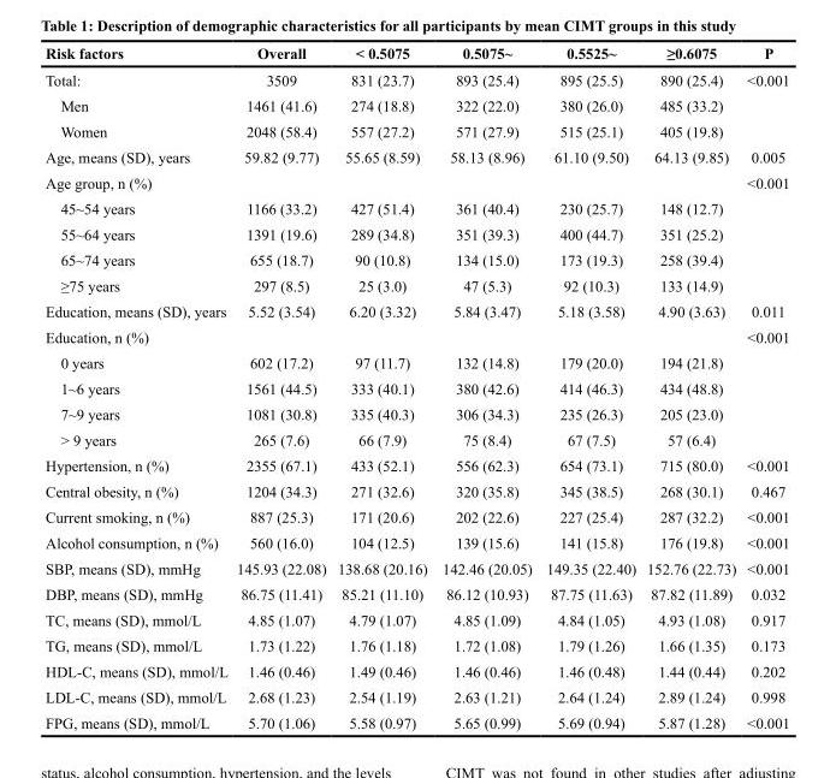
<table><thead><tr><td>Risk factors</td><td>Overall</td><td>&lt; 0.5075</td><td>0.5075~</td><td>0.5525~</td><td>≥0.6075</td><td>P</td></tr></thead><tbody><tr><td>Total:</td><td>3509</td><td>831 (23.7)</td><td>893 (25.4)</td><td>895 (25.5)</td><td>890 (25.4)</td><td>&lt;0.001</td></tr><tr><td>Men</td><td>1461 (41.6)</td><td>274 (18.8)</td><td>322 (22.0)</td><td>380 (26.0)</td><td>485 (33.2)</td><td></td></tr><tr><td>Women</td><td>2048 (58.4)</td><td>557 (27.2)</td><td>571 (27.9)</td><td>515 (25.1)</td><td>405 (19.8)</td><td></td></tr><tr><td>Age, means (SD), years</td><td>59.82 (9.77)</td><td>55.65 (8.59)</td><td>58.13 (8.96)</td><td>61.10 (9.50)</td><td>64.13 (9.85)</td><td>0.005</td></tr><tr><td>Age group, n (%)</td><td></td><td></td><td></td><td></td><td></td><td>&lt;0.001</td></tr><tr><td>45~54 years</td><td>1166 (33.2)</td><td>427 (51.4)</td><td>361 (40.4)</td><td>230 (25.7)</td><td>148 (12.7)</td><td></td></tr><tr><td>55~64 years</td><td>1391 (19.6)</td><td>289 (34.8)</td><td>351 (39.3)</td><td>400 (44.7)</td><td>351 (25.2)</td><td></td></tr><tr><td>65~74 years</td><td>655 (18.7)</td><td>90 (10.8)</td><td>134 (15.0)</td><td>173 (19.3)</td><td>258 (39.4)</td><td></td></tr><tr><td>≥75 years</td><td>297 (8.5)</td><td>25 (3.0)</td><td>47 (5.3)</td><td>92 (10.3)</td><td>133 (14.9)</td><td></td></tr><tr><td>Education, means (SD), years</td><td>5.52 (3.54)</td><td>6.20 (3.32)</td><td>5.84 (3.47)</td><td>5.18 (3.58)</td><td>4.90 (3.63)</td><td>0.011</td></tr><tr><td>Education, n (%)</td><td></td><td></td><td></td><td></td><td></td><td>&lt;0.001</td></tr><tr><td>0 years</td><td>602 (17.2)</td><td>97 (11.7)</td><td>132 (14.8)</td><td>179 (20.0)</td><td>194 (21.8)</td><td></td></tr><tr><td>1~6 years</td><td>1561 (44.5)</td><td>333 (40.1)</td><td>380 (42.6)</td><td>414 (46.3)</td><td>434 (48.8)</td><td></td></tr><tr><td>7~9 years</td><td>1081 (30.8)</td><td>335 (40.3)</td><td>306 (34.3)</td><td>235 (26.3)</td><td>205 (23.0)</td><td></td></tr><tr><td>&gt; 9 years</td><td>265 (7.6)</td><td>66 (7.9)</td><td>75 (8.4)</td><td>67 (7.5)</td><td>57 (6.4)</td><td></td></tr><tr><td>Hypertension, n (%)</td><td>2355 (67.1)</td><td>433 (52.1)</td><td>556 (62.3)</td><td>654 (73.1)</td><td>715 (80.0)</td><td>&lt;0.001</td></tr><tr><td>Central obesity, n (%)</td><td>1204 (34.3)</td><td>271 (32.6)</td><td>320 (35.8)</td><td>345 (38.5)</td><td>268 (30.1)</td><td>0.467</td></tr><tr><td>Current smoking, n (%)</td><td>887 (25.3)</td><td>171 (20.6)</td><td>202 (22.6)</td><td>227 (25.4)</td><td>287 (32.2)</td><td>&lt;0.001</td></tr><tr><td>Alcohol consumption, n (%)</td><td>560 (16.0)</td><td>104 (12.5)</td><td>139 (15.6)</td><td>141 (15.8)</td><td>176 (19.8)</td><td>&lt;0.001</td></tr><tr><td>SBP, means (SD), mmHg</td><td>145.93 (22.08)</td><td>138.68 (20.16)</td><td>142.46 (20.05)</td><td>149.35 (22.40)</td><td>152.76 (22.73)</td><td>&lt;0.001</td></tr><tr><td>DBP, means (SD), mmHg</td><td>86.75 (11.41)</td><td>85.21 (11.10)</td><td>86.12 (10.93)</td><td>87.75 (11.63)</td><td>87.82 (11.89)</td><td>0.032</td></tr><tr><td>TC, means (SD), mmol/L</td><td>4.85 (1.07)</td><td>4.79 (1.07)</td><td>4.85 (1.09)</td><td>4.84 (1.05)</td><td>4.93 (1.08)</td><td>0.917</td></tr><tr><td>TG, means (SD), mmol/L</td><td>1.73 (1.22)</td><td>1.76 (1.18)</td><td>1.72 (1.08)</td><td>1.79 (1.26)</td><td>1.66 (1.35)</td><td>0.173</td></tr><tr><td>HDL-C, means (SD), mmol/L</td><td>1.46 (0.46)</td><td>1.49 (0.46)</td><td>1.46 (0.46)</td><td>1.46 (0.48)</td><td>1.44 (0.44)</td><td>0.202</td></tr><tr><td>LDL-C, means (SD), mmol/L</td><td>2.68 (1.23)</td><td>2.54 (1.19)</td><td>2.63 (1.21)</td><td>2.64 (1.24)</td><td>2.89 (1.24)</td><td>0.998</td></tr><tr><td>FPG, means (SD), mmol/L</td><td>5.70 (1.06)</td><td>5.58 (0.97)</td><td>5.65 (0.99)</td><td>5.69 (0.94)</td><td>5.87 (1.28)</td><td>&lt;0.001</td></tr></tbody></table>